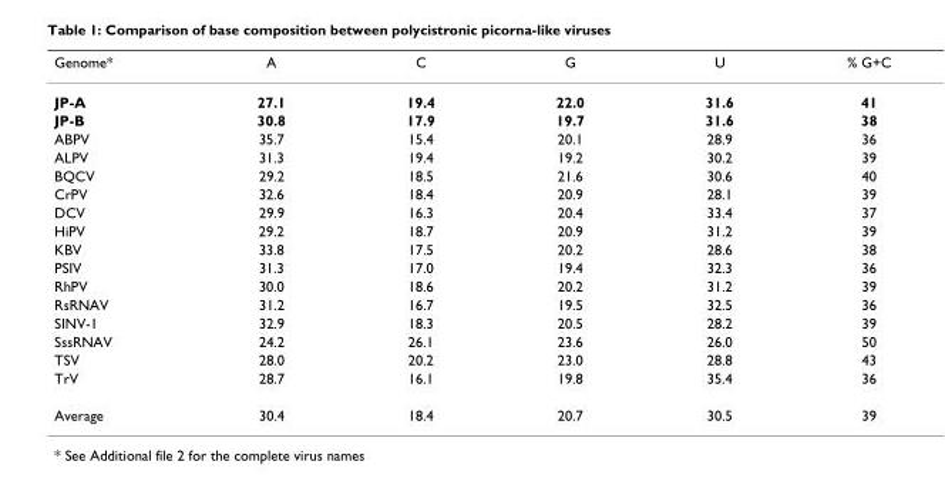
<table><thead><tr><td>Genome*</td><td>A</td><td>C</td><td>G</td><td>U</td><td>% G+C</td></tr></thead><tbody><tr><td>JP-A</td><td>27.1</td><td>19.4</td><td>22.0</td><td>31.6</td><td>41</td></tr><tr><td>JP-B</td><td>30.8</td><td>17.9</td><td>19.7</td><td>31.6</td><td>38</td></tr><tr><td>ABPV</td><td>35.7</td><td>15.4</td><td>20.1</td><td>28.9</td><td>36</td></tr><tr><td>ALPV</td><td>31.3</td><td>19.4</td><td>19.2</td><td>30.2</td><td>39</td></tr><tr><td>BQCV</td><td>29.2</td><td>18.5</td><td>21.6</td><td>30.6</td><td>40</td></tr><tr><td>CrPV</td><td>32.6</td><td>18.4</td><td>20.9</td><td>28.1</td><td>39</td></tr><tr><td>DCV</td><td>29.9</td><td>16.3</td><td>20.4</td><td>33.4</td><td>37</td></tr><tr><td>HiPV</td><td>29.2</td><td>18.7</td><td>20.9</td><td>31.2</td><td>39</td></tr><tr><td>KBV</td><td>33.8</td><td>17.5</td><td>20.2</td><td>28.6</td><td>38</td></tr><tr><td>PSIV</td><td>31.3</td><td>17.0</td><td>19.4</td><td>32.3</td><td>36</td></tr><tr><td>RhPV</td><td>30.0</td><td>18.6</td><td>20.2</td><td>31.2</td><td>39</td></tr><tr><td>RsRNAV</td><td>31.2</td><td>16.7</td><td>19.5</td><td>32.5</td><td>36</td></tr><tr><td>SINV-1</td><td>32.9</td><td>18.3</td><td>20.5</td><td>28.2</td><td>39</td></tr><tr><td>SssRNAV</td><td>24.2</td><td>26.1</td><td>23.6</td><td>26.0</td><td>50</td></tr><tr><td>TSV</td><td>28.0</td><td>20.2</td><td>23.0</td><td>28.8</td><td>43</td></tr><tr><td>TrV</td><td>28.7</td><td>16.1</td><td>19.8</td><td>35.4</td><td>36</td></tr><tr><td>Average</td><td>30.4</td><td>18.4</td><td>20.7</td><td>30.5</td><td>39</td></tr></tbody></table>